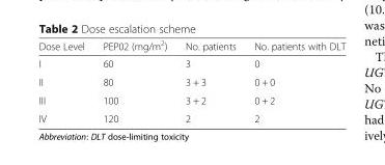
<table><thead><tr><td>Dose Level</td><td>PEP02 (mg/m<sup>2</sup>)</td><td>No. patients</td><td>No. patients with DLT</td></tr></thead><tbody><tr><td>I</td><td>60</td><td>3</td><td>0</td></tr><tr><td>II</td><td>80</td><td>3 + 3</td><td>0 + 0</td></tr><tr><td>III</td><td>100</td><td>3 + 2</td><td>0 + 2</td></tr><tr><td>IV</td><td>120</td><td>2</td><td>2</td></tr></tbody></table>